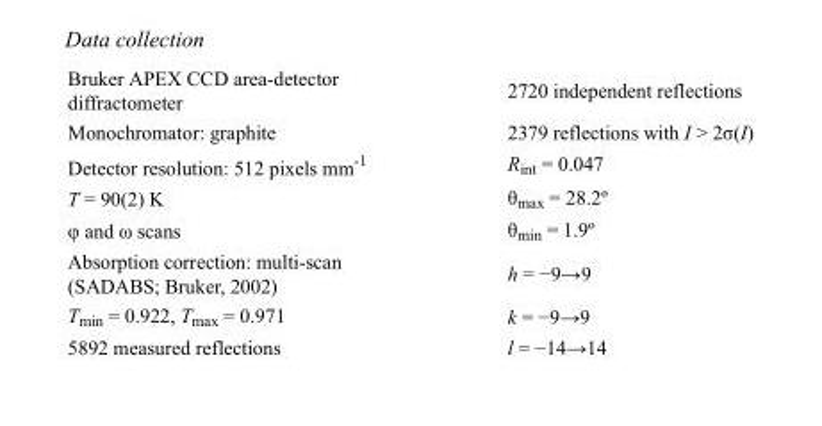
<table><tbody><tr><td>Bruker APEX CCD area-detector diffractometer</td><td>2720 independent reflections</td></tr><tr><td>Monochromator: graphite</td><td>2379 reflections with I &gt; 2σ(I)</td></tr><tr><td>Detector resolution: 512 pixels mm<sup>-1</sup></td><td>R<sub>int</sub> = 0.047</td></tr><tr><td>T = 90(2) K</td><td>θ<sub>max</sub> = 28.2º</td></tr><tr><td>φ and ω scans</td><td>θ<sub>min</sub> = 1.9º</td></tr><tr><td>Absorption correction: multi-scan (SADABS; Bruker, 2002)</td><td>h = −9→9</td></tr><tr><td>T<sub>min</sub> = 0.922, T<sub>max</sub> = 0.971</td><td>k = −9→9</td></tr><tr><td>5892 measured reflections</td><td>l = −14→14</td></tr></tbody></table>